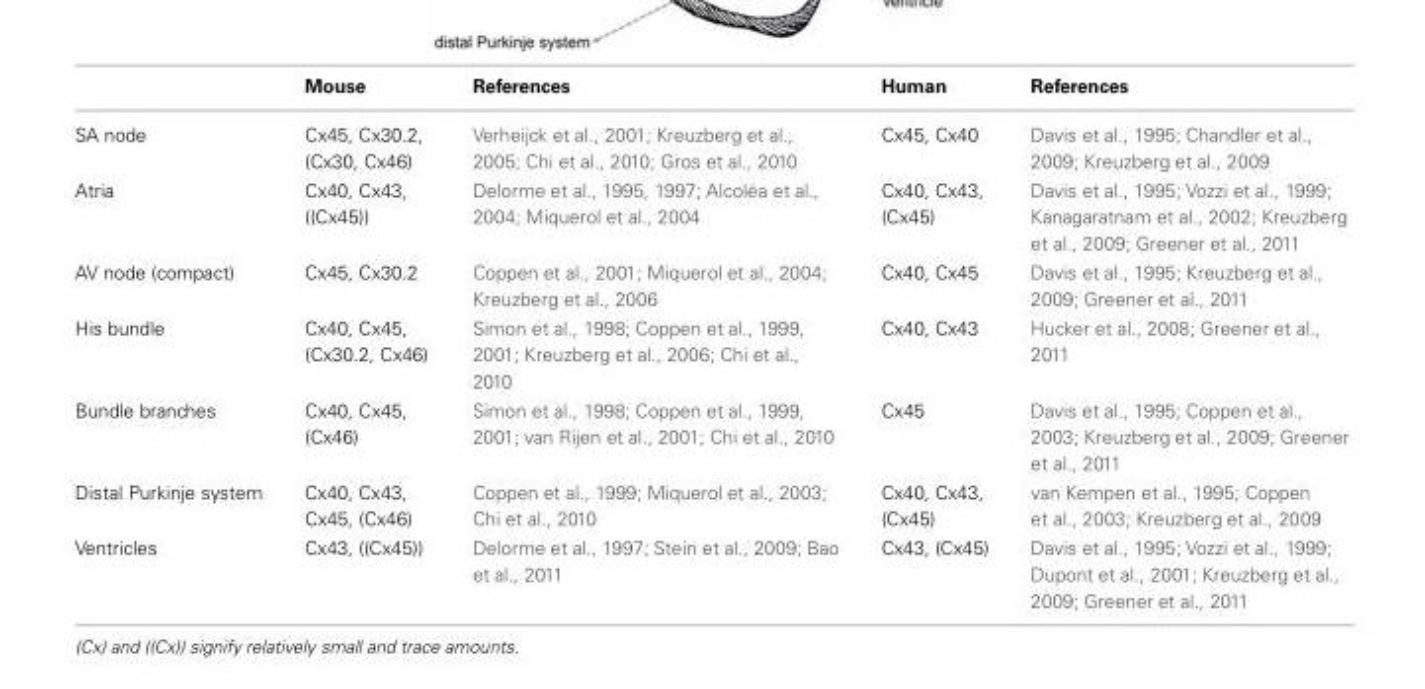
<table><thead><tr><td></td><td>Mouse</td><td>References</td><td>Human</td><td>References</td></tr></thead><tbody><tr><td>SA node</td><td>Cx45, Cx30.2, (Cx30, Cx46)</td><td>Verheijck et al., 2001; Kreuzberg et al., 2005; Chi et al., 2010; Gros et al., 2010</td><td>Cx45, Cx40</td><td>Davis et al., 1995; Chandler et al., 2009; Kreuzberg et al., 2009</td></tr><tr><td>Atria</td><td>Cx40, Cx43, ((Cx45))</td><td>Delorme et al., 1995, 1997; Alcoléa et al., 2004; Miquerol et al., 2004</td><td>Cx40, Cx43, (Cx45)</td><td>Davis et al., 1995; Vozzi et al., 1999; Kanagaratnam et al., 2002; Kreuzberg et al., 2009; Greener et al., 2011</td></tr><tr><td>AV node (compact)</td><td>Cx45, Cx30.2</td><td>Coppen et al., 2001; Miquerol et al., 2004; Kreuzberg et al., 2006</td><td>Cx40, Cx45</td><td>Davis et al., 1995; Kreuzberg et al., 2009; Greener et al., 2011</td></tr><tr><td>His bundle</td><td>Cx40, Cx45, (Cx30.2, Cx46)</td><td>Simon et al., 1998; Coppen et al., 1999, 2001; Kreuzberg et al., 2006; Chi et al., 2010</td><td>Cx40, Cx43</td><td>Hucker et al., 2008; Greener et al., 2011</td></tr><tr><td>Bundle branches</td><td>Cx40, Cx45, (Cx46)</td><td>Simon et al., 1998; Coppen et al., 1999, 2001; van Rijen et al., 2001; Chi et al., 2010</td><td>Cx45</td><td>Davis et al., 1995; Coppen et al., 2003; Kreuzberg et al., 2009; Greener et al., 2011</td></tr><tr><td>Distal Purkinje system</td><td>Cx40, Cx43, Cx45, (Cx46)</td><td>Coppen et al., 1999; Miquerol et al., 2003; Chi et al., 2010</td><td>Cx40, Cx43, (Cx45)</td><td>van Kempen et al., 1995; Coppen et al., 2003; Kreuzberg et al., 2009</td></tr><tr><td>Ventricles</td><td>Cx43, ((Cx45))</td><td>Delorme et al., 1997; Stein et al., 2009; Bao et al., 2011</td><td>Cx43, (Cx45)</td><td>Davis et al., 1995; Vozzi et al., 1999; Dupont et al., 2001; Kreuzberg et al., 2009; Greener et al., 2011</td></tr></tbody></table>